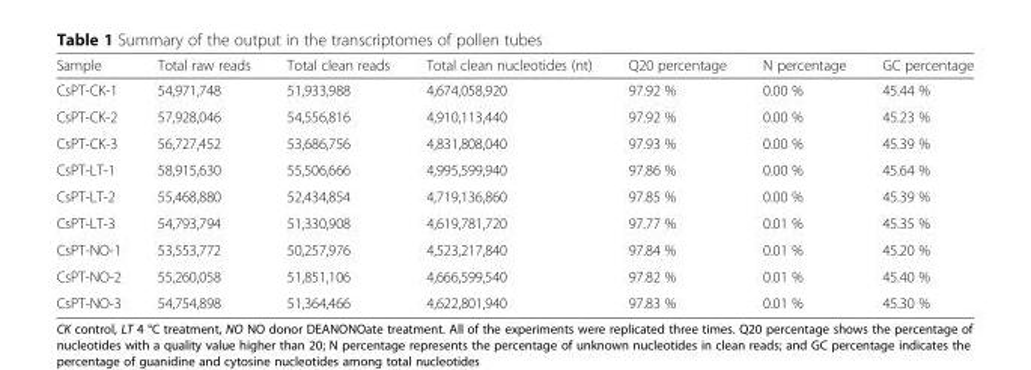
<table><thead><tr><td>Sample</td><td>Total raw reads</td><td>Total clean reads</td><td>Total clean nucleotides (nt)</td><td>Q20 percentage</td><td>N percentage</td><td>GC percentage</td></tr></thead><tbody><tr><td>CsPT-CK-1</td><td>54,971,748</td><td>51,933,988</td><td>4,674,058,920</td><td>97.92 %</td><td>0.00 %</td><td>45.44 %</td></tr><tr><td>CsPT-CK-2</td><td>57,928,046</td><td>54,556,816</td><td>4,910,113,440</td><td>97.92 %</td><td>0.00 %</td><td>45.23 %</td></tr><tr><td>CsPT-CK-3</td><td>56,727,452</td><td>53,686,756</td><td>4,831,808,040</td><td>97.93 %</td><td>0.00 %</td><td>45.39 %</td></tr><tr><td>CsPT-LT-1</td><td>58,915,630</td><td>55,506,666</td><td>4,995,599,940</td><td>97.86 %</td><td>0.00 %</td><td>45.64 %</td></tr><tr><td>CsPT-LT-2</td><td>55,468,880</td><td>52,434,854</td><td>4,719,136,860</td><td>97.85 %</td><td>0.00 %</td><td>45.39 %</td></tr><tr><td>CsPT-LT-3</td><td>54,793,794</td><td>51,330,908</td><td>4,619,781,720</td><td>97.77 %</td><td>0.01 %</td><td>45.35 %</td></tr><tr><td>CsPT-NO-1</td><td>53,553,772</td><td>50,257,976</td><td>4,523,217,840</td><td>97.84 %</td><td>0.01 %</td><td>45.20 %</td></tr><tr><td>CsPT-NO-2</td><td>55,260,058</td><td>51,851,106</td><td>4,666,599,540</td><td>97.82 %</td><td>0.01 %</td><td>45.40 %</td></tr><tr><td>CsPT-NO-3</td><td>54,754,898</td><td>51,364,466</td><td>4,622,801,940</td><td>97.83 %</td><td>0.01 %</td><td>45.30 %</td></tr></tbody></table>